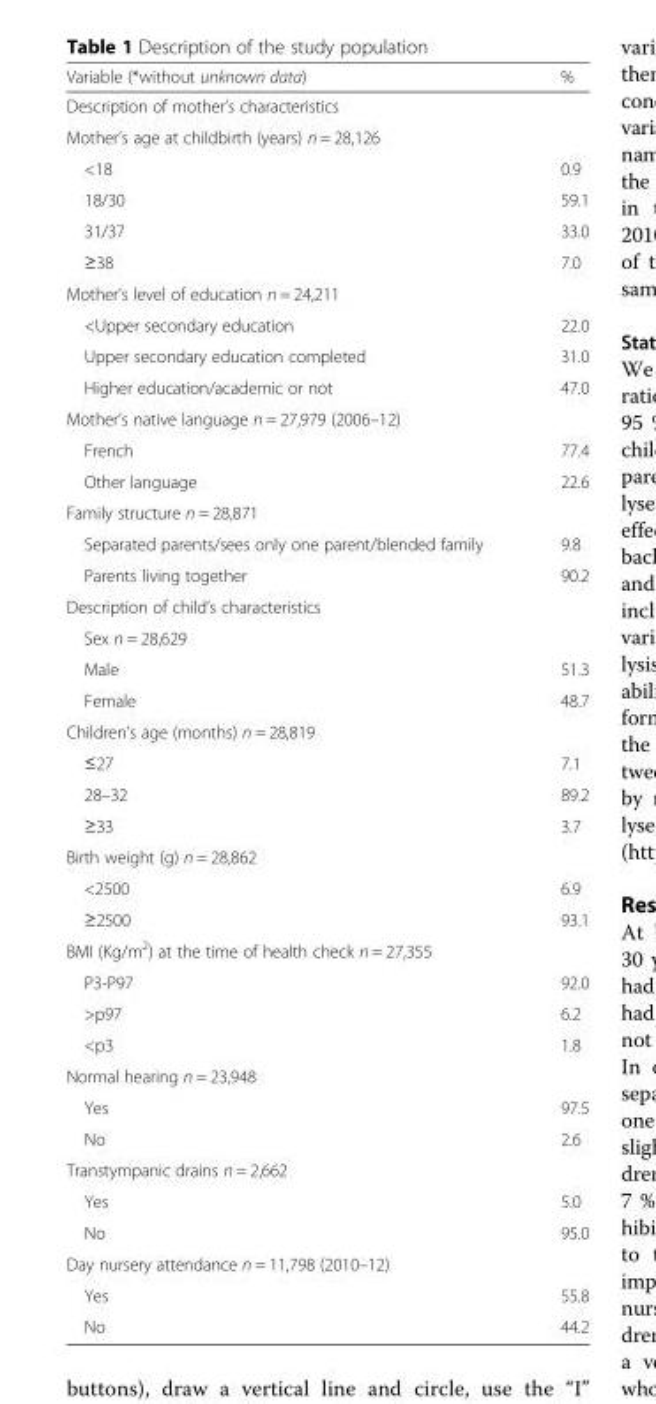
<table><thead><tr><td>Variable (*without unknown data)</td><td>%</td></tr></thead><tbody><tr><td colspan="2">Description of mother’s characteristics</td></tr><tr><td colspan="2">Mother’s age at childbirth (years) n = 28,126</td></tr><tr><td>&lt;18</td><td>0.9</td></tr><tr><td>18/30</td><td>59.1</td></tr><tr><td>31/37</td><td>33.0</td></tr><tr><td>≥38</td><td>7.0</td></tr><tr><td colspan="2">Mother’s level of education n = 24,211</td></tr><tr><td>&lt;Upper secondary education</td><td>22.0</td></tr><tr><td>Upper secondary education completed</td><td>31.0</td></tr><tr><td>Higher education/academic or not</td><td>47.0</td></tr><tr><td colspan="2">Mother’s native language n = 27,979 (2006–12)</td></tr><tr><td>French</td><td>77.4</td></tr><tr><td>Other language</td><td>22.6</td></tr><tr><td colspan="2">Family structure n = 28,871</td></tr><tr><td>Separated parents/sees only one parent/blended family</td><td>9.8</td></tr><tr><td>Parents living together</td><td>90.2</td></tr><tr><td colspan="2">Description of child’s characteristics</td></tr><tr><td colspan="2">Sex n = 28,629</td></tr><tr><td>Male</td><td>51.3</td></tr><tr><td>Female</td><td>48.7</td></tr><tr><td colspan="2">Children’s age (months) n = 28,819</td></tr><tr><td>≤27</td><td>7.1</td></tr><tr><td>28–32</td><td>89.2</td></tr><tr><td>≥33</td><td>3.7</td></tr><tr><td colspan="2">Birth weight (g) n = 28,862</td></tr><tr><td>&lt;2500</td><td>6.9</td></tr><tr><td>≥2500</td><td>93.1</td></tr><tr><td colspan="2">BMI (Kg/m<sup>2</sup>) at the time of health check n = 27,355</td></tr><tr><td>P3-P97</td><td>92.0</td></tr><tr><td>&gt;p97</td><td>6.2</td></tr><tr><td>&lt;p3</td><td>1.8</td></tr><tr><td colspan="2">Normal hearing n = 23,948</td></tr><tr><td>Yes</td><td>97.5</td></tr><tr><td>No</td><td>2.6</td></tr><tr><td colspan="2">Transtympanic drains n = 2,662</td></tr><tr><td>Yes</td><td>5.0</td></tr><tr><td>No</td><td>95.0</td></tr><tr><td colspan="2">Day nursery attendance n = 11,798 (2010–12)</td></tr><tr><td>Yes</td><td>55.8</td></tr><tr><td>No</td><td>44.2</td></tr></tbody></table>